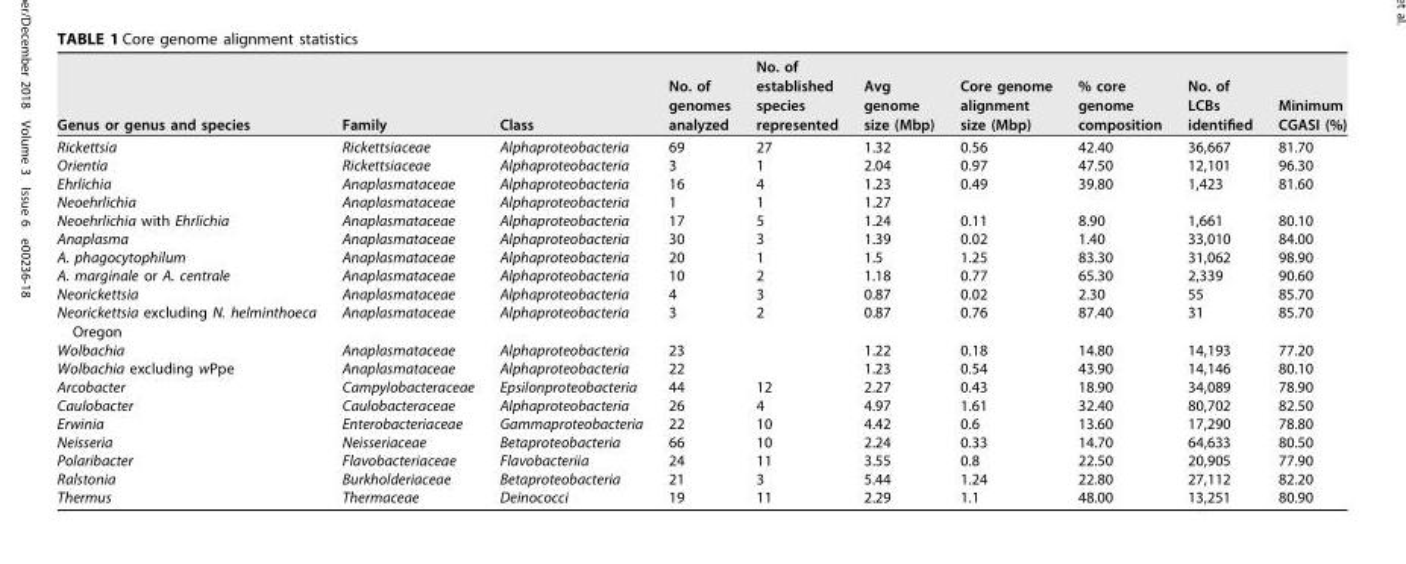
<table><thead><tr><td>Genus or genus and species</td><td>Family</td><td>Class</td><td>No. of genomes analyzed</td><td>No. of established species represented</td><td>Avg genome size (Mbp)</td><td>Core genome alignment size (Mbp)</td><td>% core genome composition</td><td>No. of LCBs identified</td><td>Minimum CGASI (%)</td></tr></thead><tbody><tr><td>Rickettsia</td><td>Rickettsiaceae</td><td>Alphaproteobacteria</td><td>69</td><td>27</td><td>1.32</td><td>0.56</td><td>42.40</td><td>36,667</td><td>81.70</td></tr><tr><td>Orientia</td><td>Rickettsiaceae</td><td>Alphaproteobacteria</td><td>3</td><td>1</td><td>2.04</td><td>0.97</td><td>47.50</td><td>12,101</td><td>96.30</td></tr><tr><td>Ehrlichia</td><td>Anaplasmataceae</td><td>Alphaproteobacteria</td><td>16</td><td>4</td><td>1.23</td><td>0.49</td><td>39.80</td><td>1,423</td><td>81.60</td></tr><tr><td>Neoehrlichia</td><td>Anaplasmataceae</td><td>Alphaproteobacteria</td><td>1</td><td>1</td><td>1.27</td><td></td><td></td><td></td><td></td></tr><tr><td>Neoehrlichia with Ehrlichia</td><td>Anaplasmataceae</td><td>Alphaproteobacteria</td><td>17</td><td>5</td><td>1.24</td><td>0.11</td><td>8.90</td><td>1,661</td><td>80.10</td></tr><tr><td>Anaplasma</td><td>Anaplasmataceae</td><td>Alphaproteobacteria</td><td>30</td><td>3</td><td>1.39</td><td>0.02</td><td>1.40</td><td>33,010</td><td>84.00</td></tr><tr><td>A. phagocytophilum</td><td>Anaplasmataceae</td><td>Alphaproteobacteria</td><td>20</td><td>1</td><td>1.5</td><td>1.25</td><td>83.30</td><td>31,062</td><td>98.90</td></tr><tr><td>A. marginale or A. centrale</td><td>Anaplasmataceae</td><td>Alphaproteobacteria</td><td>10</td><td>2</td><td>1.18</td><td>0.77</td><td>65.30</td><td>2,339</td><td>90.60</td></tr><tr><td>Neorickettsia</td><td>Anaplasmataceae</td><td>Alphaproteobacteria</td><td>4</td><td>3</td><td>0.87</td><td>0.02</td><td>2.30</td><td>55</td><td>85.70</td></tr><tr><td>Neorickettsia excluding N. helminthoeca Oregon</td><td>Anaplasmataceae</td><td>Alphaproteobacteria</td><td>3</td><td>2</td><td>0.87</td><td>0.76</td><td>87.40</td><td>31</td><td>85.70</td></tr><tr><td>Wolbachia</td><td>Anaplasmataceae</td><td>Alphaproteobacteria</td><td>23</td><td></td><td>1.22</td><td>0.18</td><td>14.80</td><td>14,193</td><td>77.20</td></tr><tr><td>Wolbachia excluding wPpe</td><td>Anaplasmataceae</td><td>Alphaproteobacteria</td><td>22</td><td></td><td>1.23</td><td>0.54</td><td>43.90</td><td>14,146</td><td>80.10</td></tr><tr><td>Arcobacter</td><td>Campylobacteraceae</td><td>Epsilonproteobacteria</td><td>44</td><td>12</td><td>2.27</td><td>0.43</td><td>18.90</td><td>34,089</td><td>78.90</td></tr><tr><td>Caulobacter</td><td>Caulobacteraceae</td><td>Alphaproteobacteria</td><td>26</td><td>4</td><td>4.97</td><td>1.61</td><td>32.40</td><td>80,702</td><td>82.50</td></tr><tr><td>Erwinia</td><td>Enterobacteriaceae</td><td>Gammaproteobacteria</td><td>22</td><td>10</td><td>4.42</td><td>0.6</td><td>13.60</td><td>17,290</td><td>78.80</td></tr><tr><td>Neisseria</td><td>Neisseriaceae</td><td>Betaproteobacteria</td><td>66</td><td>10</td><td>2.24</td><td>0.33</td><td>14.70</td><td>64,633</td><td>80.50</td></tr><tr><td>Polaribacter</td><td>Flavobacteriaceae</td><td>Flavobacteriia</td><td>24</td><td>11</td><td>3.55</td><td>0.8</td><td>22.50</td><td>20,905</td><td>77.90</td></tr><tr><td>Ralstonia</td><td>Burkholderiaceae</td><td>Betaproteobacteria</td><td>21</td><td>3</td><td>5.44</td><td>1.24</td><td>22.80</td><td>27,112</td><td>82.20</td></tr><tr><td>Thermus</td><td>Thermaceae</td><td>Deinococci</td><td>19</td><td>11</td><td>2.29</td><td>1.1</td><td>48.00</td><td>13,251</td><td>80.90</td></tr></tbody></table>